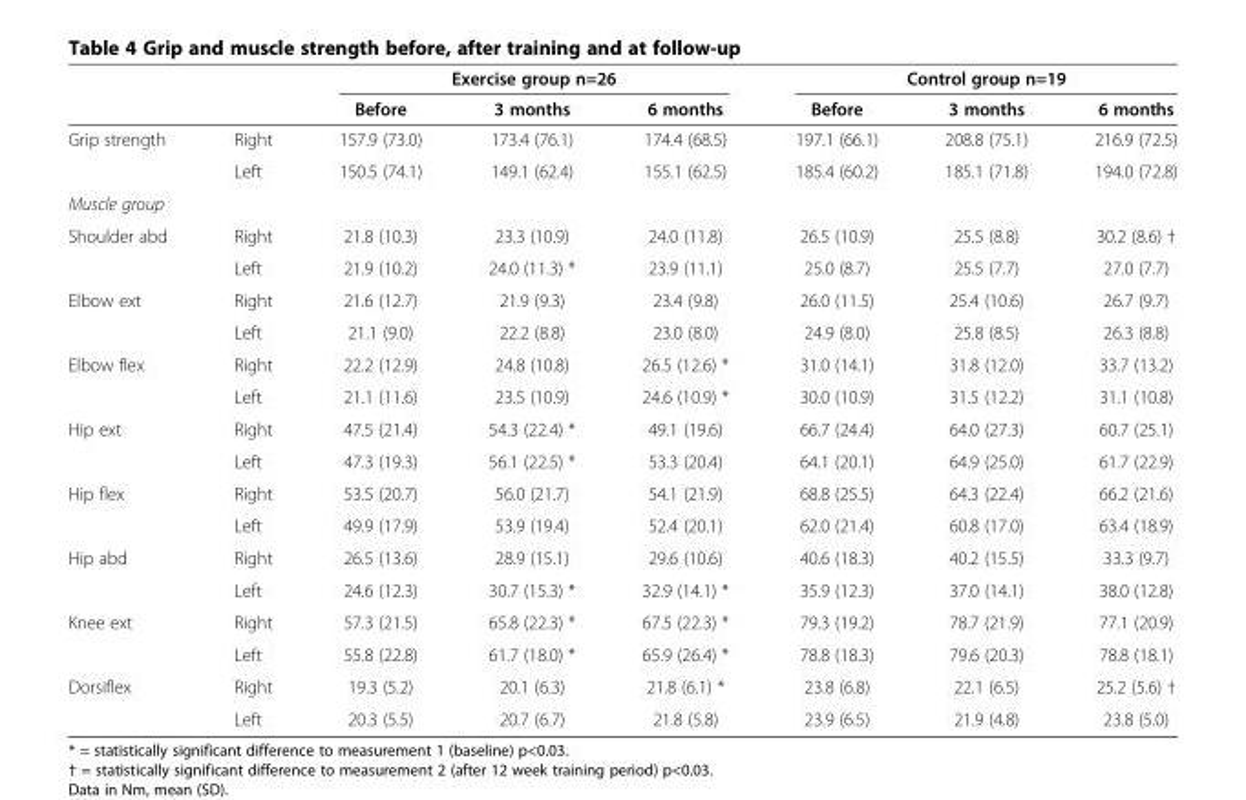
<table><thead><tr><td rowspan="2"></td><td rowspan="2"></td><td colspan="3">Exercise group n=26</td><td colspan="3">Control group n=19</td></tr><tr><td>Before</td><td>3 months</td><td>6 months</td><td>Before</td><td>3 months</td><td>6 months</td></tr></thead><tbody><tr><td rowspan="2">Grip strength</td><td>Right</td><td>157.9 (73.0)</td><td>173.4 (76.1)</td><td>174.4 (68.5)</td><td>197.1 (66.1)</td><td>208.8 (75.1)</td><td>216.9 (72.5)</td></tr><tr><td>Left</td><td>150.5 (74.1)</td><td>149.1 (62.4)</td><td>155.1 (62.5)</td><td>185.4 (60.2)</td><td>185.1 (71.8)</td><td>194.0 (72.8)</td></tr><tr><td colspan="8">Muscle group</td></tr><tr><td rowspan="2">Shoulder abd</td><td>Right</td><td>21.8 (10.3)</td><td>23.3 (10.9)</td><td>24.0 (11.8)</td><td>26.5 (10.9)</td><td>25.5 (8.8)</td><td>30.2 (8.6) †</td></tr><tr><td>Left</td><td>21.9 (10.2)</td><td>24.0 (11.3) *</td><td>23.9 (11.1)</td><td>25.0 (8.7)</td><td>25.5 (7.7)</td><td>27.0 (7.7)</td></tr><tr><td rowspan="2">Elbow ext</td><td>Right</td><td>21.6 (12.7)</td><td>21.9 (9.3)</td><td>23.4 (9.8)</td><td>26.0 (11.5)</td><td>25.4 (10.6)</td><td>26.7 (9.7)</td></tr><tr><td>Left</td><td>21.1 (9.0)</td><td>22.2 (8.8)</td><td>23.0 (8.0)</td><td>24.9 (8.0)</td><td>25.8 (8.5)</td><td>26.3 (8.8)</td></tr><tr><td rowspan="2">Elbow flex</td><td>Right</td><td>22.2 (12.9)</td><td>24.8 (10.8)</td><td>26.5 (12.6) *</td><td>31.0 (14.1)</td><td>31.8 (12.0)</td><td>33.7 (13.2)</td></tr><tr><td>Left</td><td>21.1 (11.6)</td><td>23.5 (10.9)</td><td>24.6 (10.9) *</td><td>30.0 (10.9)</td><td>31.5 (12.2)</td><td>31.1 (10.8)</td></tr><tr><td rowspan="2">Hip ext</td><td>Right</td><td>47.5 (21.4)</td><td>54.3 (22.4) *</td><td>49.1 (19.6)</td><td>66.7 (24.4)</td><td>64.0 (27.3)</td><td>60.7 (25.1)</td></tr><tr><td>Left</td><td>47.3 (19.3)</td><td>56.1 (22.5) *</td><td>53.3 (20.4)</td><td>64.1 (20.1)</td><td>64.9 (25.0)</td><td>61.7 (22.9)</td></tr><tr><td rowspan="2">Hip flex</td><td>Right</td><td>53.5 (20.7)</td><td>56.0 (21.7)</td><td>54.1 (21.9)</td><td>68.8 (25.5)</td><td>64.3 (22.4)</td><td>66.2 (21.6)</td></tr><tr><td>Left</td><td>49.9 (17.9)</td><td>53.9 (19.4)</td><td>52.4 (20.1)</td><td>62.0 (21.4)</td><td>60.8 (17.0)</td><td>63.4 (18.9)</td></tr><tr><td rowspan="2">Hip abd</td><td>Right</td><td>26.5 (13.6)</td><td>28.9 (15.1)</td><td>29.6 (10.6)</td><td>40.6 (18.3)</td><td>40.2 (15.5)</td><td>33.3 (9.7)</td></tr><tr><td>Left</td><td>24.6 (12.3)</td><td>30.7 (15.3) *</td><td>32.9 (14.1) *</td><td>35.9 (12.3)</td><td>37.0 (14.1)</td><td>38.0 (12.8)</td></tr><tr><td rowspan="2">Knee ext</td><td>Right</td><td>57.3 (21.5)</td><td>65.8 (22.3) *</td><td>67.5 (22.3) *</td><td>79.3 (19.2)</td><td>78.7 (21.9)</td><td>77.1 (20.9)</td></tr><tr><td>Left</td><td>55.8 (22.8)</td><td>61.7 (18.0) *</td><td>65.9 (26.4) *</td><td>78.8 (18.3)</td><td>79.6 (20.3)</td><td>78.8 (18.1)</td></tr><tr><td rowspan="2">Dorsiflex</td><td>Right</td><td>19.3 (5.2)</td><td>20.1 (6.3)</td><td>21.8 (6.1) *</td><td>23.8 (6.8)</td><td>22.1 (6.5)</td><td>25.2 (5.6) †</td></tr><tr><td>Left</td><td>20.3 (5.5)</td><td>20.7 (6.7)</td><td>21.8 (5.8)</td><td>23.9 (6.5)</td><td>21.9 (4.8)</td><td>23.8 (5.0)</td></tr></tbody></table>